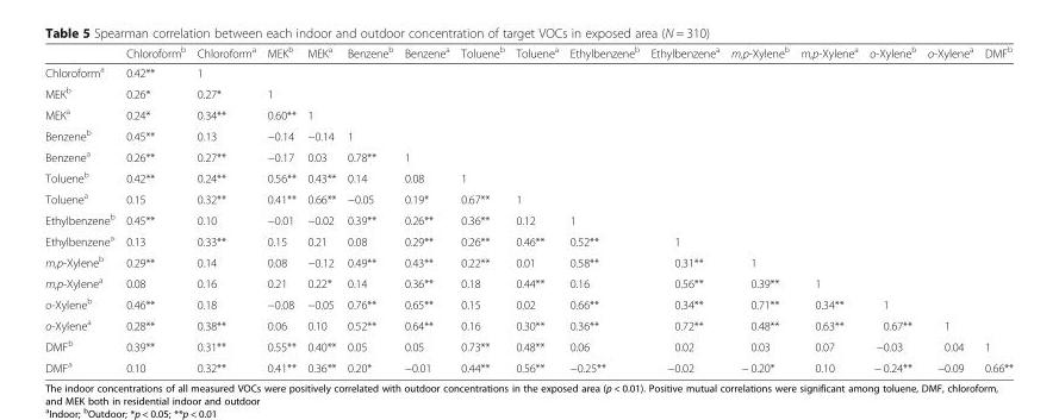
<table><thead><tr><td></td><td>Chloroform<sup>b</sup></td><td>Chloroform<sup>a</sup></td><td>MEK<sup>b</sup></td><td>MEK<sup>a</sup></td><td>Benzene<sup>b</sup></td><td>Benzene<sup>a</sup></td><td>Toluene<sup>b</sup></td><td>Toluene<sup>a</sup></td><td>Ethylbenzene<sup>b</sup></td><td>Ethylbenzene<sup>a</sup></td><td>m,p-Xylene<sup>b</sup></td><td>m,p-Xylene<sup>a</sup></td><td>o-Xylene<sup>b</sup></td><td>o-Xylene<sup>a</sup></td><td>DMF<sup>b</sup></td></tr></thead><tbody><tr><td>Chloroform<sup>a</sup></td><td>0.42**</td><td>1</td><td></td><td></td><td></td><td></td><td></td><td></td><td></td><td></td><td></td><td></td><td></td><td></td><td></td></tr><tr><td>MEK<sup>b</sup></td><td>0.26*</td><td>0.27*</td><td>1</td><td></td><td></td><td></td><td></td><td></td><td></td><td></td><td></td><td></td><td></td><td></td><td></td></tr><tr><td>MEK<sup>a</sup></td><td>0.24*</td><td>0.34**</td><td>0.60**</td><td>1</td><td></td><td></td><td></td><td></td><td></td><td></td><td></td><td></td><td></td><td></td><td></td></tr><tr><td>Benzene<sup>b</sup></td><td>0.45**</td><td>0.13</td><td>−0.14</td><td>−0.14</td><td>1</td><td></td><td></td><td></td><td></td><td></td><td></td><td></td><td></td><td></td><td></td></tr><tr><td>Benzene<sup>a</sup></td><td>0.26**</td><td>0.27**</td><td>−0.17</td><td>0.03</td><td>0.78**</td><td>1</td><td></td><td></td><td></td><td></td><td></td><td></td><td></td><td></td><td></td></tr><tr><td>Toluene<sup>b</sup></td><td>0.42**</td><td>0.24**</td><td>0.56**</td><td>0.43**</td><td>0.14</td><td>0.08</td><td>1</td><td></td><td></td><td></td><td></td><td></td><td></td><td></td><td></td></tr><tr><td>Toluene<sup>a</sup></td><td>0.15</td><td>0.32**</td><td>0.41**</td><td>0.66**</td><td>−0.05</td><td>0.19*</td><td>0.67**</td><td>1</td><td></td><td></td><td></td><td></td><td></td><td></td><td></td></tr><tr><td>Ethylbenzene<sup>b</sup></td><td>0.45**</td><td>0.10</td><td>−0.01</td><td>−0.02</td><td>0.39**</td><td>0.26**</td><td>0.36**</td><td>0.12</td><td>1</td><td></td><td></td><td></td><td></td><td></td><td></td></tr><tr><td>Ethylbenzene<sup>a</sup></td><td>0.13</td><td>0.33**</td><td>0.15</td><td>0.21</td><td>0.08</td><td>0.29**</td><td>0.26**</td><td>0.46**</td><td>0.52**</td><td>1</td><td></td><td></td><td></td><td></td><td></td></tr><tr><td>m,p-Xylene<sup>b</sup></td><td>0.29**</td><td>0.14</td><td>0.08</td><td>−0.12</td><td>0.49**</td><td>0.43**</td><td>0.22**</td><td>0.01</td><td>0.58**</td><td>0.31**</td><td>1</td><td></td><td></td><td></td><td></td></tr><tr><td>m,p-Xylene<sup>a</sup></td><td>0.08</td><td>0.16</td><td>0.21</td><td>0.22*</td><td>0.14</td><td>0.36**</td><td>0.18</td><td>0.44**</td><td>0.16</td><td>0.56**</td><td>0.39**</td><td>1</td><td></td><td></td><td></td></tr><tr><td>o-Xylene<sup>b</sup></td><td>0.46**</td><td>0.18</td><td>−0.08</td><td>−0.05</td><td>0.76**</td><td>0.65**</td><td>0.15</td><td>0.02</td><td>0.66**</td><td>0.34**</td><td>0.71**</td><td>0.34**</td><td>1</td><td></td><td></td></tr><tr><td>o-Xylene<sup>a</sup></td><td>0.28**</td><td>0.38**</td><td>0.06</td><td>0.10</td><td>0.52**</td><td>0.64**</td><td>0.16</td><td>0.30**</td><td>0.36**</td><td>0.72**</td><td>0.48**</td><td>0.63**</td><td>0.67**</td><td>1</td><td></td></tr><tr><td>DMF<sup>b</sup></td><td>0.39**</td><td>0.31**</td><td>0.55**</td><td>0.40**</td><td>0.05</td><td>0.05</td><td>0.73**</td><td>0.48**</td><td>0.06</td><td>0.02</td><td>0.03</td><td>0.07</td><td>−0.03</td><td>0.04</td><td>1</td></tr><tr><td>DMF<sup>a</sup></td><td>0.10</td><td>0.32**</td><td>0.41**</td><td>0.36**</td><td>0.20*</td><td>−0.01</td><td>0.44**</td><td>0.56**</td><td>−0.25**</td><td>−0.02</td><td>− 0.20*</td><td>0.10</td><td>− 0.24**</td><td>−0.09</td><td>0.66**</td></tr></tbody></table>